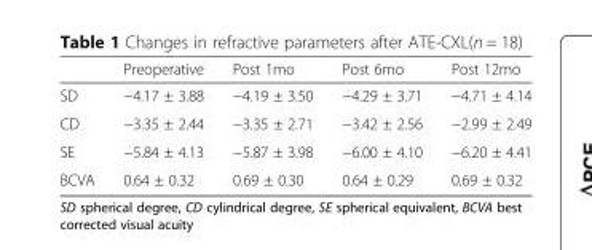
<table><thead><tr><td></td><td>Preoperative</td><td>Post 1mo</td><td>Post 6mo</td><td>Post 12mo</td></tr></thead><tbody><tr><td>SD</td><td>−4.17 ± 3.88</td><td>−4.19 ± 3.50</td><td>−4.29 ± 3.71</td><td>−4.71 ± 4.14</td></tr><tr><td>CD</td><td>−3.35 ± 2.44</td><td>−3.35 ± 2.71</td><td>−3.42 ± 2.56</td><td>−2.99 ± 2.49</td></tr><tr><td>SE</td><td>−5.84 ± 4.13</td><td>−5.87 ± 3.98</td><td>−6.00 ± 4.10</td><td>−6.20 ± 4.41</td></tr><tr><td>BCVA</td><td>0.64 ± 0.32</td><td>0.69 ± 0.30</td><td>0.64 ± 0.29</td><td>0.69 ± 0.32</td></tr></tbody></table>